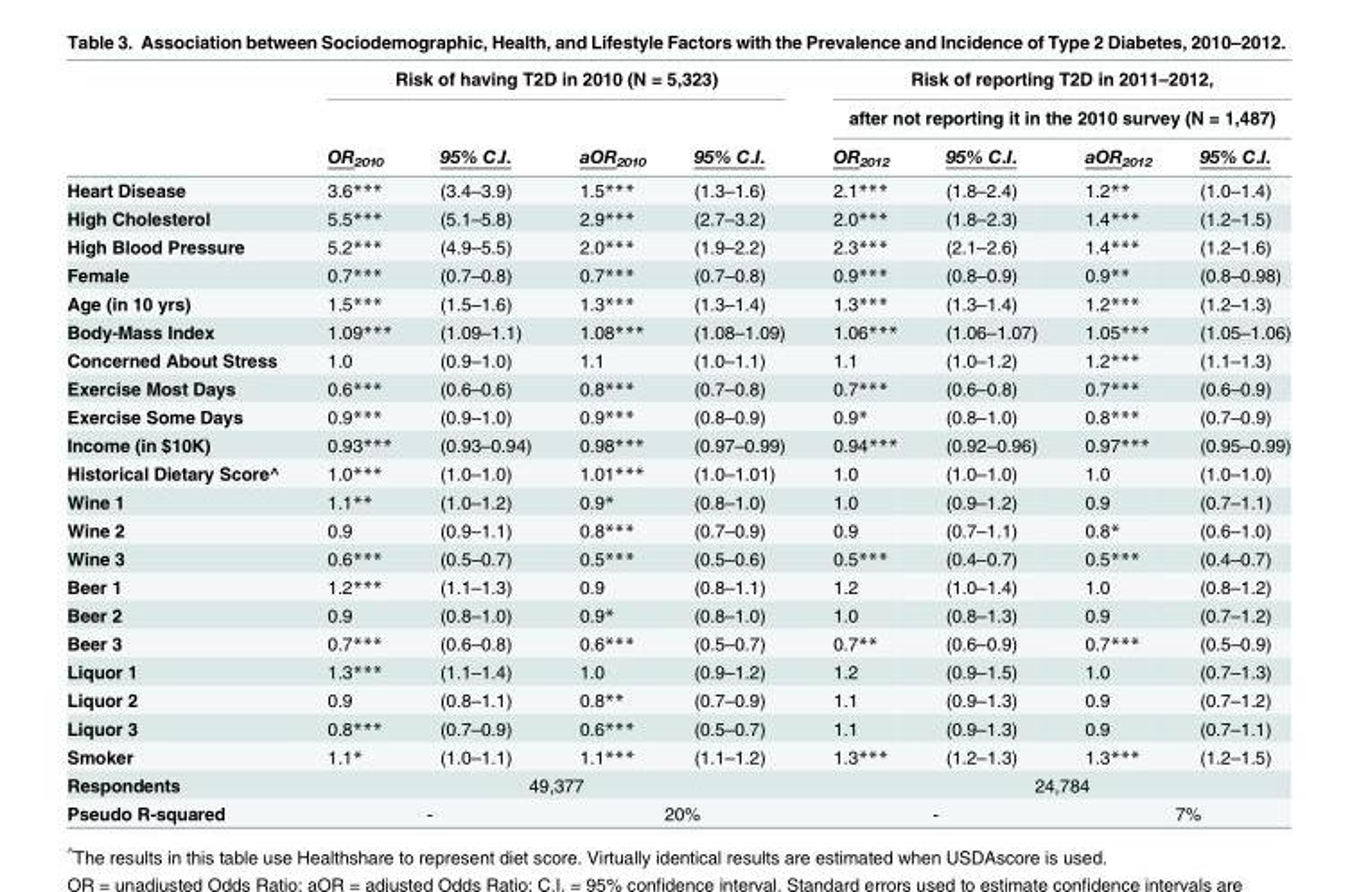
<table><thead><tr><td rowspan="3"></td><td colspan="4">Risk of having T2D in 2010 (N = 5,323)</td><td rowspan="2" colspan="4">Risk of reporting T2D in 2011–2012, after not reporting it in the 2010 survey (N = 1,487)</td></tr><tr><td rowspan="2">OR<sub>2010</sub></td><td rowspan="2">95% C.I.</td><td rowspan="2">aOR<sub>2010</sub></td><td rowspan="2">95% C.I.</td></tr><tr><td>OR<sub>2012</sub></td><td>95% C.I.</td><td>aOR<sub>2012</sub></td><td>95% C.I.</td></tr></thead><tbody><tr><td>Heart Disease</td><td>3.6***</td><td>(3.4–3.9)</td><td>1.5***</td><td>(1.3–1.6)</td><td>2.1***</td><td>(1.8–2.4)</td><td>1.2**</td><td>(1.0–1.4)</td></tr><tr><td>High Cholesterol</td><td>5.5***</td><td>(5.1–5.8)</td><td>2.9***</td><td>(2.7–3.2)</td><td>2.0***</td><td>(1.8–2.3)</td><td>1.4***</td><td>(1.2–1.5)</td></tr><tr><td>High Blood Pressure</td><td>5.2***</td><td>(4.9–5.5)</td><td>2.0***</td><td>(1.9–2.2)</td><td>2.3***</td><td>(2.1–2.6)</td><td>1.4***</td><td>(1.2–1.6)</td></tr><tr><td>Female</td><td>0.7***</td><td>(0.7–0.8)</td><td>0.7***</td><td>(0.7–0.8)</td><td>0.9***</td><td>(0.8–0.9)</td><td>0.9**</td><td>(0.8–0.98)</td></tr><tr><td>Age (in 10 yrs)</td><td>1.5***</td><td>(1.5–1.6)</td><td>1.3***</td><td>(1.3–1.4)</td><td>1.3***</td><td>(1.3–1.4)</td><td>1.2***</td><td>(1.2–1.3)</td></tr><tr><td>Body-Mass Index</td><td>1.09***</td><td>(1.09–1.1)</td><td>1.08***</td><td>(1.08–1.09)</td><td>1.06***</td><td>(1.06–1.07)</td><td>1.05***</td><td>(1.05–1.06)</td></tr><tr><td>Concerned About Stress</td><td>1.0</td><td>(0.9–1.0)</td><td>1.1</td><td>(1.0–1.1)</td><td>1.1</td><td>(1.0–1.2)</td><td>1.2***</td><td>(1.1–1.3)</td></tr><tr><td>Exercise Most Days</td><td>0.6***</td><td>(0.6–0.6)</td><td>0.8***</td><td>(0.7–0.8)</td><td>0.7***</td><td>(0.6–0.8)</td><td>0.7***</td><td>(0.6–0.9)</td></tr><tr><td>Exercise Some Days</td><td>0.9***</td><td>(0.9–1.0)</td><td>0.9***</td><td>(0.8–0.9)</td><td>0.9*</td><td>(0.8–1.0)</td><td>0.8***</td><td>(0.7–0.9)</td></tr><tr><td>Income (in $10K)</td><td>0.93***</td><td>(0.93–0.94)</td><td>0.98***</td><td>(0.97–0.99)</td><td>0.94***</td><td>(0.92–0.96)</td><td>0.97***</td><td>(0.95–0.99)</td></tr><tr><td>Historical Dietary Score^</td><td>1.0***</td><td>(1.0–1.0)</td><td>1.01***</td><td>(1.0–1.01)</td><td>1.0</td><td>(1.0–1.0)</td><td>1.0</td><td>(1.0–1.0)</td></tr><tr><td>Wine 1</td><td>1.1**</td><td>(1.0–1.2)</td><td>0.9*</td><td>(0.8–1.0)</td><td>1.0</td><td>(0.9–1.2)</td><td>0.9</td><td>(0.7–1.1)</td></tr><tr><td>Wine 2</td><td>0.9</td><td>(0.9–1.1)</td><td>0.8***</td><td>(0.7–0.9)</td><td>0.9</td><td>(0.7–1.1)</td><td>0.8*</td><td>(0.6–1.0)</td></tr><tr><td>Wine 3</td><td>0.6***</td><td>(0.5–0.7)</td><td>0.5***</td><td>(0.5–0.6)</td><td>0.5***</td><td>(0.4–0.7)</td><td>0.5***</td><td>(0.4–0.7)</td></tr><tr><td>Beer 1</td><td>1.2***</td><td>(1.1–1.3)</td><td>0.9</td><td>(0.8–1.1)</td><td>1.2</td><td>(1.0–1.4)</td><td>1.0</td><td>(0.8–1.2)</td></tr><tr><td>Beer 2</td><td>0.9</td><td>(0.8–1.0)</td><td>0.9*</td><td>(0.8–1.0)</td><td>1.0</td><td>(0.8–1.3)</td><td>0.9</td><td>(0.7–1.2)</td></tr><tr><td>Beer 3</td><td>0.7***</td><td>(0.6–0.8)</td><td>0.6***</td><td>(0.5–0.7)</td><td>0.7**</td><td>(0.6–0.9)</td><td>0.7***</td><td>(0.5–0.9)</td></tr><tr><td>Liquor 1</td><td>1.3***</td><td>(1.1–1.4)</td><td>1.0</td><td>(0.9–1.2)</td><td>1.2</td><td>(0.9–1.5)</td><td>1.0</td><td>(0.7–1.3)</td></tr><tr><td>Liquor 2</td><td>0.9</td><td>(0.8–1.1)</td><td>0.8**</td><td>(0.7–0.9)</td><td>1.1</td><td>(0.9–1.3)</td><td>0.9</td><td>(0.7–1.2)</td></tr><tr><td>Liquor 3</td><td>0.8***</td><td>(0.7–0.9)</td><td>0.6***</td><td>(0.5–0.7)</td><td>1.1</td><td>(0.9–1.3)</td><td>0.9</td><td>(0.7–1.1)</td></tr><tr><td>Smoker</td><td>1.1*</td><td>(1.0–1.1)</td><td>1.1***</td><td>(1.1–1.2)</td><td>1.3***</td><td>(1.2–1.3)</td><td>1.3***</td><td>(1.2–1.5)</td></tr><tr><td>Respondents</td><td colspan="4">49,377</td><td colspan="4">24,784</td></tr><tr><td>Pseudo R-squared</td><td colspan="2">-</td><td colspan="2">20%</td><td colspan="2">-</td><td colspan="2">7%</td></tr></tbody></table>